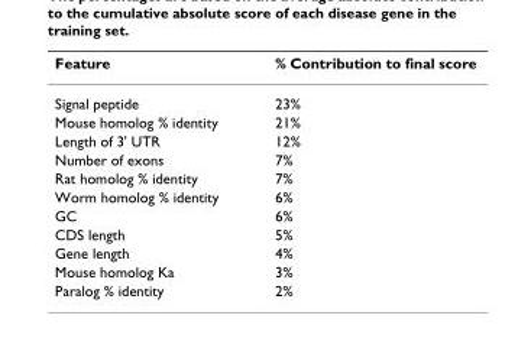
<table><thead><tr><td>Feature</td><td>% Contribution to final score</td></tr></thead><tbody><tr><td>Signal peptide</td><td>23%</td></tr><tr><td>Mouse homolog % identity</td><td>21%</td></tr><tr><td>Length of 3&#x27; UTR</td><td>12%</td></tr><tr><td>Number of exons</td><td>7%</td></tr><tr><td>Rat homolog % identity</td><td>7%</td></tr><tr><td>Worm homolog % identity</td><td>6%</td></tr><tr><td>GC</td><td>6%</td></tr><tr><td>CDS length</td><td>5%</td></tr><tr><td>Gene length</td><td>4%</td></tr><tr><td>Mouse homolog Ka</td><td>3%</td></tr><tr><td>Paralog % identity</td><td>2%</td></tr></tbody></table>